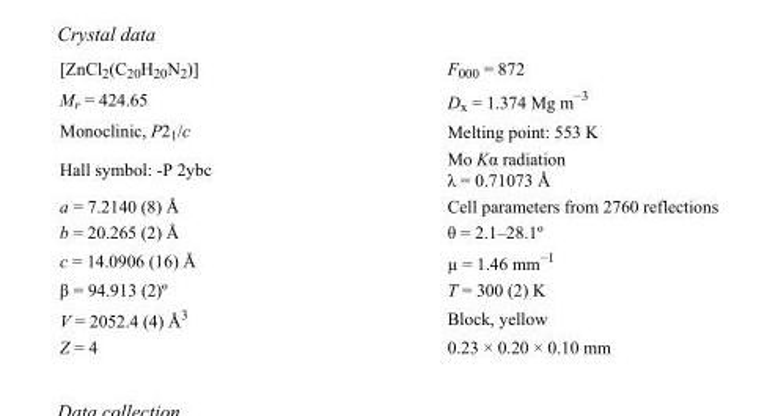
<table><tbody><tr><td>[ZnCl<sub>2</sub>(C<sub>20</sub>H<sub>20</sub>N<sub>2</sub>)]</td><td>F<sub>000</sub> = 872</td></tr><tr><td>M<sub>r</sub> = 424.65</td><td>D<sub>x</sub> = 1.374 Mg m<sup>−3</sup></td></tr><tr><td>Monoclinic, P2<sub>1</sub>/c</td><td>Melting point: 553 K</td></tr><tr><td>Hall symbol: -P 2ybc</td><td>Mo Kα radiation λ = 0.71073 Å</td></tr><tr><td>a = 7.2140 (8) Å</td><td>Cell parameters from 2760 reflections</td></tr><tr><td>b = 20.265 (2) Å</td><td>θ = 2.1–28.1º</td></tr><tr><td>c = 14.0906 (16) Å</td><td>µ = 1.46 mm<sup>−1</sup></td></tr><tr><td>β = 94.913 (2)º</td><td>T = 300 (2) K</td></tr><tr><td>V = 2052.4 (4) Å<sup>3</sup></td><td>Block, yellow</td></tr><tr><td>Z = 4</td><td>0.23 × 0.20 × 0.10 mm</td></tr></tbody></table>